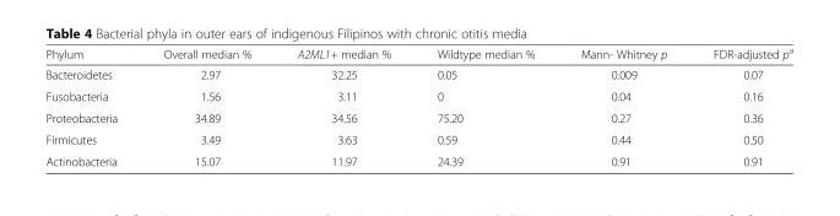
<table><thead><tr><td>Phylum</td><td>Overall median %</td><td>A2ML1+ median %</td><td>Wildtype median %</td><td>Mann- Whitney p</td><td>FDR-adjusted p<sup>a</sup></td></tr></thead><tbody><tr><td>Bacteroidetes</td><td>2.97</td><td>32.25</td><td>0.05</td><td>0.009</td><td>0.07</td></tr><tr><td>Fusobacteria</td><td>1.56</td><td>3.11</td><td>0</td><td>0.04</td><td>0.16</td></tr><tr><td>Proteobacteria</td><td>34.89</td><td>34.56</td><td>75.20</td><td>0.27</td><td>0.36</td></tr><tr><td>Firmicutes</td><td>3.49</td><td>3.63</td><td>0.59</td><td>0.44</td><td>0.50</td></tr><tr><td>Actinobacteria</td><td>15.07</td><td>11.97</td><td>24.39</td><td>0.91</td><td>0.91</td></tr></tbody></table>